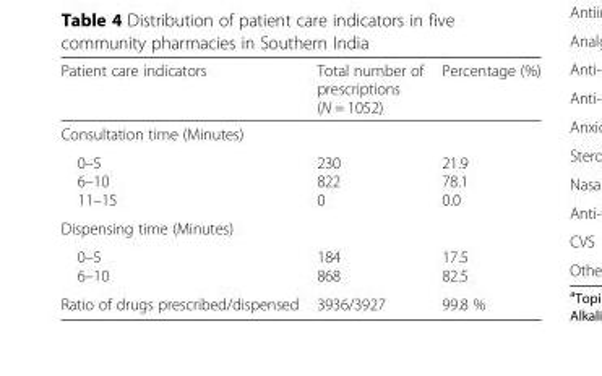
<table><thead><tr><td>Patient care indicators</td><td>Total number of prescriptions (N = 1052)</td><td>Percentage (%)</td></tr></thead><tbody><tr><td colspan="3">Consultation time (Minutes)</td></tr><tr><td>0–5 6–10 11–15</td><td>230 822 0</td><td>21.9 78.1 0.0</td></tr><tr><td colspan="3">Dispensing time (Minutes)</td></tr><tr><td>0–5 6–10</td><td>184 868</td><td>17.5 82.5</td></tr><tr><td>Ratio of drugs prescribed/dispensed</td><td>3936/3927</td><td>99.8 %</td></tr></tbody></table>